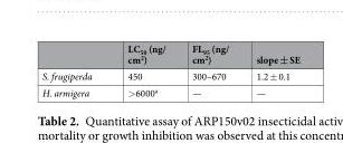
<table><thead><tr><td></td><td>LC<sub>50</sub> (ng/ cm<sup>2</sup>)</td><td>FL<sub>95</sub> (ng/ cm<sup>2</sup>)</td><td>slope ± SE</td></tr></thead><tbody><tr><td>S. frugiperda</td><td>450</td><td>300–670</td><td>1.2 ± 0.1</td></tr><tr><td>H. armigera</td><td>&gt;6000<sup>a</sup></td><td>—</td><td>—</td></tr></tbody></table>